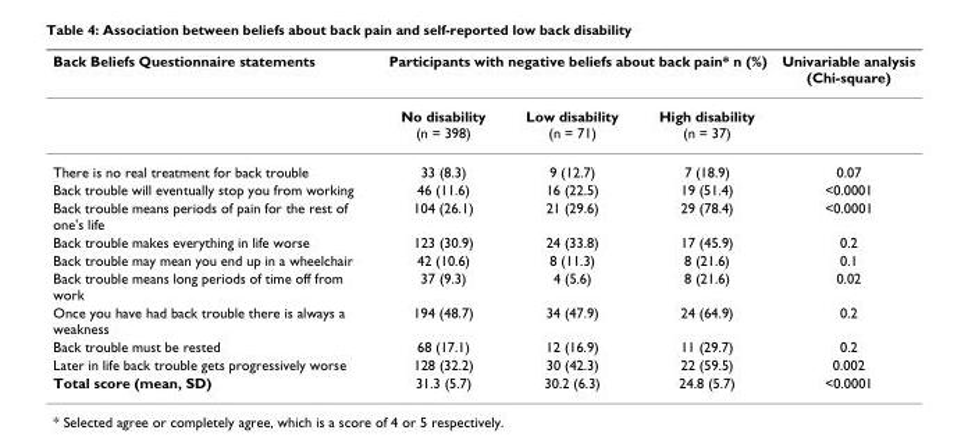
<table><thead><tr><td rowspan="2">Back Beliefs Questionnaire statements</td><td colspan="3">Participants with negative beliefs about back pain* n (%)</td><td rowspan="2">Univariable analysis (Chi-square)</td></tr><tr><td>No disability (n = 398)</td><td>Low disability (n = 71)</td><td>High disability (n = 37)</td></tr></thead><tbody><tr><td>There is no real treatment for back trouble</td><td>33 (8.3)</td><td>9 (12.7)</td><td>7 (18.9)</td><td>0.07</td></tr><tr><td>Back trouble will eventually stop you from working</td><td>46 (11.6)</td><td>16 (22.5)</td><td>19 (51.4)</td><td>&lt;0.0001</td></tr><tr><td>Back trouble means periods of pain for the rest of one&#x27;s life</td><td>104 (26.1)</td><td>21 (29.6)</td><td>29 (78.4)</td><td>&lt;0.0001</td></tr><tr><td>Back trouble makes everything in life worse</td><td>123 (30.9)</td><td>24 (33.8)</td><td>17 (45.9)</td><td>0.2</td></tr><tr><td>Back trouble may mean you end up in a wheelchair</td><td>42 (10.6)</td><td>8 (11.3)</td><td>8 (21.6)</td><td>0.1</td></tr><tr><td>Back trouble means long periods of time off from work</td><td>37 (9.3)</td><td>4 (5.6)</td><td>8 (21.6)</td><td>0.02</td></tr><tr><td>Once you have had back trouble there is always a weakness</td><td>194 (48.7)</td><td>34 (47.9)</td><td>24 (64.9)</td><td>0.2</td></tr><tr><td>Back trouble must be rested</td><td>68 (17.1)</td><td>12 (16.9)</td><td>11 (29.7)</td><td>0.2</td></tr><tr><td>Later in life back trouble gets progressively worse</td><td>128 (32.2)</td><td>30 (42.3)</td><td>22 (59.5)</td><td>0.002</td></tr><tr><td>Total score (mean, SD)</td><td>31.3 (5.7)</td><td>30.2 (6.3)</td><td>24.8 (5.7)</td><td>&lt;0.0001</td></tr></tbody></table>